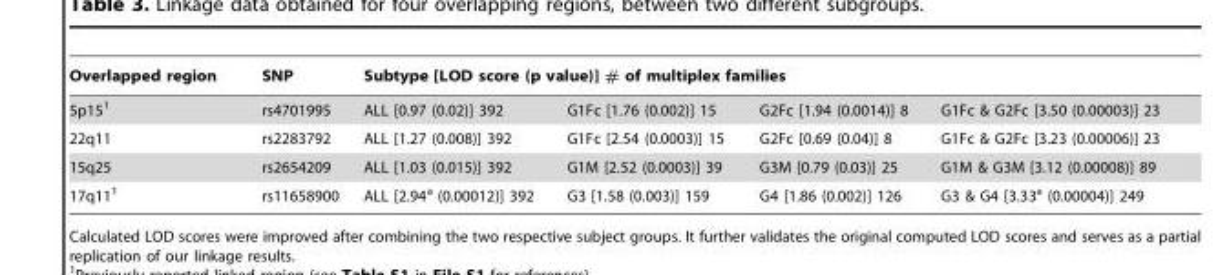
<table><thead><tr><td rowspan="2">Overlapped region 5p15<sup>1</sup></td><td rowspan="2">SNP rs4701995</td><td colspan="4">Subtype [LOD score (p value)] # of multiplex families</td></tr><tr><td>ALL [0.97 (0.02)] 392</td><td>G1Fc [1.76 (0.002)] 15</td><td>G2Fc [1.94 (0.0014)] 8</td><td>G1Fc &amp; G2Fc [3.50 (0.00003)] 23</td></tr></thead><tbody><tr><td>22q11</td><td>rs2283792</td><td>ALL [1.27 (0.008)] 392</td><td>G1Fc [2.54 (0.0003)] 15</td><td>G2Fc [0.69 (0.04)] 8</td><td>G1Fc &amp; G2Fc [3.23 (0.00006)] 23</td></tr><tr><td>15q25</td><td>rs2654209</td><td>ALL [1.03 (0.015)] 392</td><td>G1M [2.52 (0.0003)] 39</td><td>G3M [0.79 (0.03)] 25</td><td>G1M &amp; G3M [3.12 (0.00008)] 89</td></tr><tr><td>17q11<sup>1</sup></td><td>rs11658900</td><td>ALL [2.94<sup>a</sup> (0.00012)] 392</td><td>G3 [1.58 (0.003)] 159</td><td>G4 [1.86 (0.002)] 126</td><td>G3 &amp; G4 [3.33<sup>a</sup> (0.00004)] 249</td></tr></tbody></table>